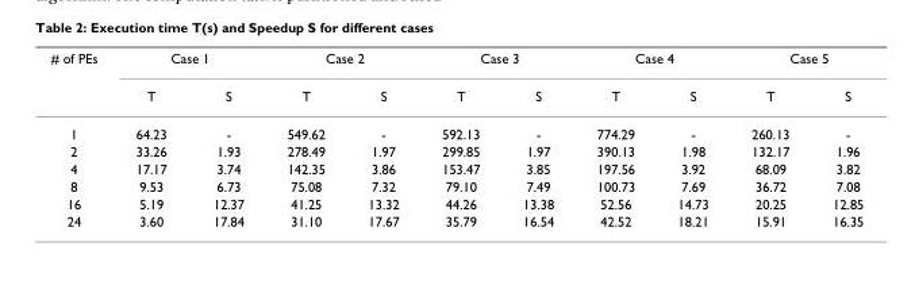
<table><thead><tr><td rowspan="2"># of PEs</td><td colspan="2">Case 1</td><td colspan="2">Case 2</td><td colspan="2">Case 3</td><td colspan="2">Case 4</td><td colspan="2">Case 5</td></tr><tr><td>T</td><td>S</td><td>T</td><td>S</td><td>T</td><td>S</td><td>T</td><td>S</td><td>T</td><td>S</td></tr></thead><tbody><tr><td>1</td><td>64.23</td><td>-</td><td>549.62</td><td>-</td><td>592.13</td><td>-</td><td>774.29</td><td>-</td><td>260.13</td><td>-</td></tr><tr><td>2</td><td>33.26</td><td>1.93</td><td>278.49</td><td>1.97</td><td>299.85</td><td>1.97</td><td>390.13</td><td>1.98</td><td>132.17</td><td>1.96</td></tr><tr><td>4</td><td>17.17</td><td>3.74</td><td>142.35</td><td>3.86</td><td>153.47</td><td>3.85</td><td>197.56</td><td>3.92</td><td>68.09</td><td>3.82</td></tr><tr><td>8</td><td>9.53</td><td>6.73</td><td>75.08</td><td>7.32</td><td>79.10</td><td>7.49</td><td>100.73</td><td>7.69</td><td>36.72</td><td>7.08</td></tr><tr><td>16</td><td>5.19</td><td>12.37</td><td>41.25</td><td>13.32</td><td>44.26</td><td>13.38</td><td>52.56</td><td>14.73</td><td>20.25</td><td>12.85</td></tr><tr><td>24</td><td>3.60</td><td>17.84</td><td>31.10</td><td>17.67</td><td>35.79</td><td>16.54</td><td>42.52</td><td>18.21</td><td>15.91</td><td>16.35</td></tr></tbody></table>